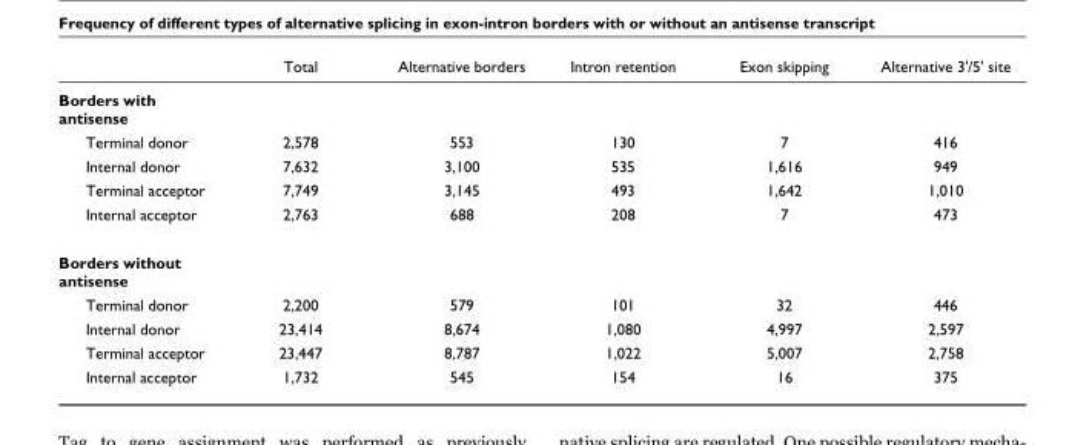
<table><thead><tr><td></td><td>Total</td><td>Alternative borders</td><td>Intron retention</td><td>Exon skipping</td><td>Alternative 3&#x27;/5&#x27; site</td></tr></thead><tbody><tr><td colspan="6">Borders with antisense</td></tr><tr><td>Terminal donor</td><td>2,578</td><td>553</td><td>130</td><td>7</td><td>416</td></tr><tr><td>Internal donor</td><td>7,632</td><td>3,100</td><td>535</td><td>1,616</td><td>949</td></tr><tr><td>Terminal acceptor</td><td>7,749</td><td>3,145</td><td>493</td><td>1,642</td><td>1,010</td></tr><tr><td>Internal acceptor</td><td>2,763</td><td>688</td><td>208</td><td>7</td><td>473</td></tr><tr><td colspan="6">Borders without antisense</td></tr><tr><td>Terminal donor</td><td>2,200</td><td>579</td><td>101</td><td>32</td><td>446</td></tr><tr><td>Internal donor</td><td>23,414</td><td>8,674</td><td>1,080</td><td>4,997</td><td>2,597</td></tr><tr><td>Terminal acceptor</td><td>23,447</td><td>8,787</td><td>1,022</td><td>5,007</td><td>2,758</td></tr><tr><td>Internal acceptor</td><td>1,732</td><td>545</td><td>154</td><td>16</td><td>375</td></tr></tbody></table>